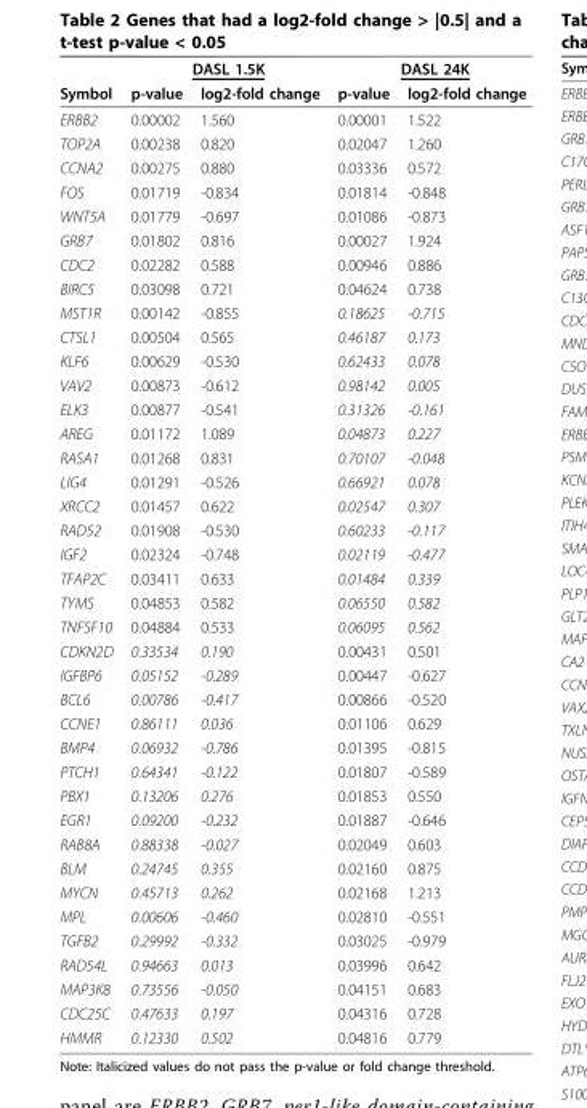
<table><thead><tr><td rowspan="2">Symbol</td><td colspan="2">DASL 1.5K</td><td colspan="2">DASL 24K</td></tr><tr><td>p-value</td><td>log2-fold change</td><td>p-value</td><td>log2-fold change</td></tr></thead><tbody><tr><td>ERBB2</td><td>0.00002</td><td>1.560</td><td>0.00001</td><td>1.522</td></tr><tr><td>TOP2A</td><td>0.00238</td><td>0.820</td><td>0.02047</td><td>1.260</td></tr><tr><td>CCNA2</td><td>0.00275</td><td>0.880</td><td>0.03336</td><td>0.572</td></tr><tr><td>FOS</td><td>0.01719</td><td>-0.834</td><td>0.01814</td><td>-0.848</td></tr><tr><td>WNT5A</td><td>0.01779</td><td>-0.697</td><td>0.01086</td><td>-0.873</td></tr><tr><td>GRB7</td><td>0.01802</td><td>0.816</td><td>0.00027</td><td>1.924</td></tr><tr><td>CDC2</td><td>0.02282</td><td>0.588</td><td>0.00946</td><td>0.886</td></tr><tr><td>BIRC5</td><td>0.03098</td><td>0.721</td><td>0.04624</td><td>0.738</td></tr><tr><td>MST1R</td><td>0.00142</td><td>-0.855</td><td>0.18625</td><td>-0.715</td></tr><tr><td>CTSL1</td><td>0.00504</td><td>0.565</td><td>0.46187</td><td>0.173</td></tr><tr><td>KLF6</td><td>0.00629</td><td>-0.530</td><td>0.62433</td><td>0.078</td></tr><tr><td>VAV2</td><td>0.00873</td><td>-0.612</td><td>0.98142</td><td>0.005</td></tr><tr><td>ELK3</td><td>0.00877</td><td>-0.541</td><td>0.31326</td><td>-0.161</td></tr><tr><td>AREG</td><td>0.01172</td><td>1.089</td><td>0.04873</td><td>0.227</td></tr><tr><td>RASA1</td><td>0.01268</td><td>0.831</td><td>0.70107</td><td>-0.048</td></tr><tr><td>LIG4</td><td>0.01291</td><td>-0.526</td><td>0.66921</td><td>0.078</td></tr><tr><td>XRCC2</td><td>0.01457</td><td>0.622</td><td>0.02547</td><td>0.307</td></tr><tr><td>RAD52</td><td>0.01908</td><td>-0.530</td><td>0.60233</td><td>-0.117</td></tr><tr><td>IGF2</td><td>0.02324</td><td>-0.748</td><td>0.02119</td><td>-0.477</td></tr><tr><td>TFAP2C</td><td>0.03411</td><td>0.633</td><td>0.01484</td><td>0.339</td></tr><tr><td>TYMS</td><td>0.04853</td><td>0.582</td><td>0.06550</td><td>0.582</td></tr><tr><td>TNFSF10</td><td>0.04884</td><td>0.533</td><td>0.06095</td><td>0.562</td></tr><tr><td>CDKN2D</td><td>0.33534</td><td>0.190</td><td>0.00431</td><td>0.501</td></tr><tr><td>IGFBP6</td><td>0.05152</td><td>-0.289</td><td>0.00447</td><td>-0.627</td></tr><tr><td>BCL6</td><td>0.00786</td><td>-0.417</td><td>0.00866</td><td>-0.520</td></tr><tr><td>CCNE1</td><td>0.86111</td><td>0.036</td><td>0.01106</td><td>0.629</td></tr><tr><td>BMP4</td><td>0.06932</td><td>-0.786</td><td>0.01395</td><td>-0.815</td></tr><tr><td>PTCH1</td><td>0.64341</td><td>-0.122</td><td>0.01807</td><td>-0.589</td></tr><tr><td>PBX1</td><td>0.13206</td><td>0.276</td><td>0.01853</td><td>0.550</td></tr><tr><td>EGR1</td><td>0.09200</td><td>-0.232</td><td>0.01887</td><td>-0.646</td></tr><tr><td>RAB8A</td><td>0.88338</td><td>-0.027</td><td>0.02049</td><td>0.603</td></tr><tr><td>BLM</td><td>0.24745</td><td>0.355</td><td>0.02160</td><td>0.875</td></tr><tr><td>MYCN</td><td>0.45713</td><td>0.262</td><td>0.02168</td><td>1.213</td></tr><tr><td>MPL</td><td>0.00606</td><td>-0.460</td><td>0.02810</td><td>-0.551</td></tr><tr><td>TGFB2</td><td>0.29992</td><td>-0.332</td><td>0.03025</td><td>-0.979</td></tr><tr><td>RAD54L</td><td>0.94663</td><td>0.013</td><td>0.03996</td><td>0.642</td></tr><tr><td>MAP3K8</td><td>0.73556</td><td>-0.050</td><td>0.04151</td><td>0.683</td></tr><tr><td>CDC25C</td><td>0.47633</td><td>0.197</td><td>0.04316</td><td>0.728</td></tr><tr><td>HMMR</td><td>0.12330</td><td>0.502</td><td>0.04816</td><td>0.779</td></tr></tbody></table>